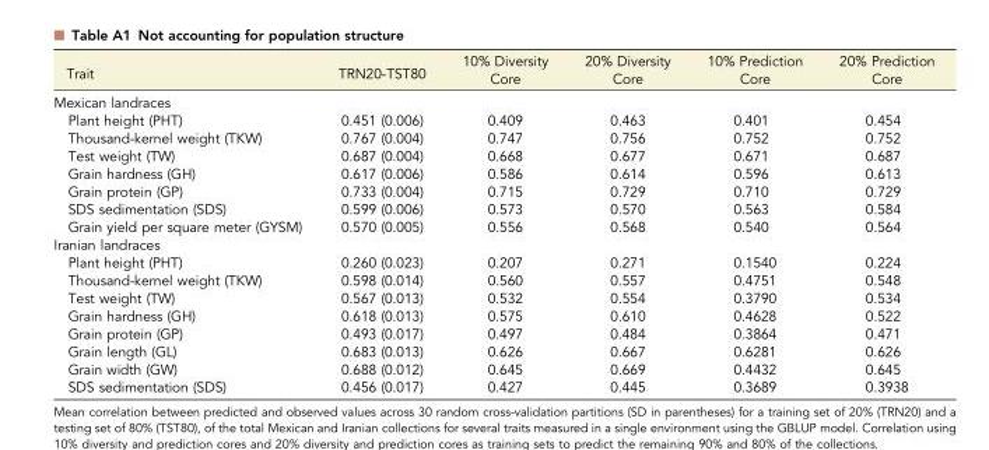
<table><thead><tr><td>Trait</td><td>TRN20-TST80</td><td>10% Diversity Core</td><td>20% Diversity Core</td><td>10% Prediction Core</td><td>20% Prediction Core</td></tr></thead><tbody><tr><td colspan="6">Mexican landraces</td></tr><tr><td>Plant height (PHT)</td><td>0.451 (0.006)</td><td>0.409</td><td>0.463</td><td>0.401</td><td>0.454</td></tr><tr><td>Thousand-kernel weight (TKW)</td><td>0.767 (0.004)</td><td>0.747</td><td>0.756</td><td>0.752</td><td>0.752</td></tr><tr><td>Test weight (TW)</td><td>0.687 (0.004)</td><td>0.668</td><td>0.677</td><td>0.671</td><td>0.687</td></tr><tr><td>Grain hardness (GH)</td><td>0.617 (0.006)</td><td>0.586</td><td>0.614</td><td>0.596</td><td>0.613</td></tr><tr><td>Grain protein (GP)</td><td>0.733 (0.004)</td><td>0.715</td><td>0.729</td><td>0.710</td><td>0.729</td></tr><tr><td>SDS sedimentation (SDS)</td><td>0.599 (0.006)</td><td>0.573</td><td>0.570</td><td>0.563</td><td>0.584</td></tr><tr><td>Grain yield per square meter (GYSM)</td><td>0.570 (0.005)</td><td>0.556</td><td>0.568</td><td>0.540</td><td>0.564</td></tr><tr><td colspan="6">Iranian landraces</td></tr><tr><td>Plant height (PHT)</td><td>0.260 (0.023)</td><td>0.207</td><td>0.271</td><td>0.1540</td><td>0.224</td></tr><tr><td>Thousand-kernel weight (TKW)</td><td>0.598 (0.014)</td><td>0.560</td><td>0.557</td><td>0.4751</td><td>0.548</td></tr><tr><td>Test weight (TW)</td><td>0.567 (0.013)</td><td>0.532</td><td>0.554</td><td>0.3790</td><td>0.534</td></tr><tr><td>Grain hardness (GH)</td><td>0.618 (0.013)</td><td>0.575</td><td>0.610</td><td>0.4628</td><td>0.522</td></tr><tr><td>Grain protein (GP)</td><td>0.493 (0.017)</td><td>0.497</td><td>0.484</td><td>0.3864</td><td>0.471</td></tr><tr><td>Grain length (GL)</td><td>0.683 (0.013)</td><td>0.626</td><td>0.667</td><td>0.6281</td><td>0.626</td></tr><tr><td>Grain width (GW)</td><td>0.688 (0.012)</td><td>0.645</td><td>0.669</td><td>0.4432</td><td>0.645</td></tr><tr><td>SDS sedimentation (SDS)</td><td>0.456 (0.017)</td><td>0.427</td><td>0.445</td><td>0.3689</td><td>0.3938</td></tr></tbody></table>